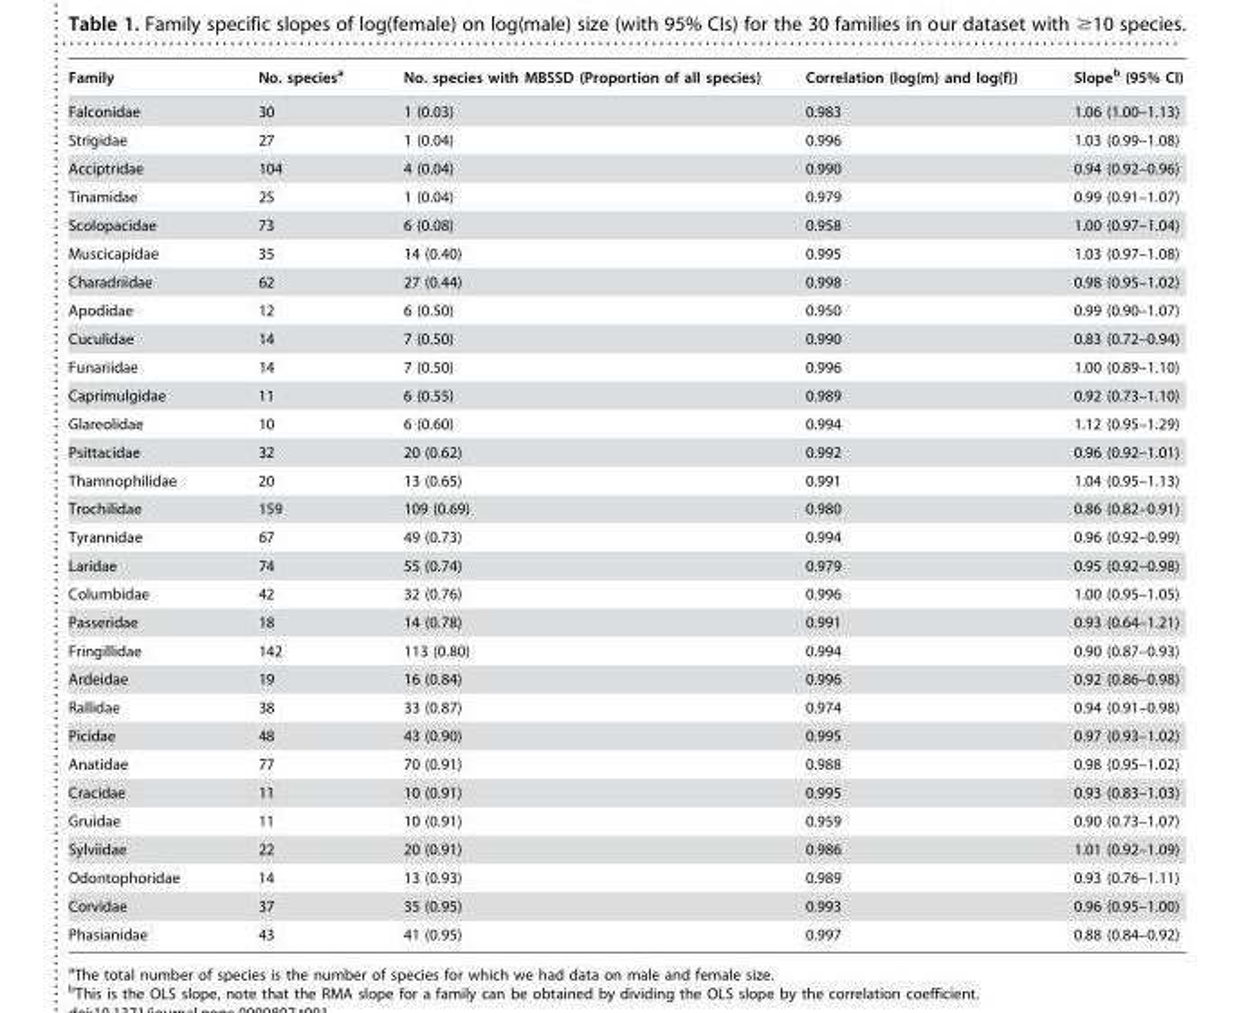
<table><thead><tr><td>Family</td><td>No. species<sup>a</sup></td><td>No. species with MBSSD (Proportion of all species)</td><td>Correlation (log(m) and log(f))</td><td>Slope<sup>b</sup> (95% CI)</td></tr></thead><tbody><tr><td>Falconidae</td><td>30</td><td>1 (0.03)</td><td>0.983</td><td>1.06 (1.00–1.13)</td></tr><tr><td>Strigidae</td><td>27</td><td>1 (0.04)</td><td>0.996</td><td>1.03 (0.99–1.08)</td></tr><tr><td>Acciptridae</td><td>104</td><td>4 (0.04)</td><td>0.990</td><td>0.94 (0.92–0.96)</td></tr><tr><td>Tinamidae</td><td>25</td><td>1 (0.04)</td><td>0.979</td><td>0.99 (0.91–1.07)</td></tr><tr><td>Scolopacidae</td><td>73</td><td>6 (0.08)</td><td>0.958</td><td>1.00 (0.97–1.04)</td></tr><tr><td>Muscicapidae</td><td>35</td><td>14 (0.40)</td><td>0.995</td><td>1.03 (0.97–1.08)</td></tr><tr><td>Charadriidae</td><td>62</td><td>27 (0.44)</td><td>0.998</td><td>0.98 (0.95–1.02)</td></tr><tr><td>Apodidae</td><td>12</td><td>6 (0.50)</td><td>0.950</td><td>0.99 (0.90–1.07)</td></tr><tr><td>Cuculidae</td><td>14</td><td>7 (0.50)</td><td>0.990</td><td>0.83 (0.72–0.94)</td></tr><tr><td>Funariidae</td><td>14</td><td>7 (0.50)</td><td>0.996</td><td>1.00 (0.89–1.10)</td></tr><tr><td>Caprimulgidae</td><td>11</td><td>6 (0.55)</td><td>0.989</td><td>0.92 (0.73–1.10)</td></tr><tr><td>Glareolidae</td><td>10</td><td>6 (0.60)</td><td>0.994</td><td>1.12 (0.95–1.29)</td></tr><tr><td>Psittacidae</td><td>32</td><td>20 (0.62)</td><td>0.992</td><td>0.96 (0.92–1.01)</td></tr><tr><td>Thamnophilidae</td><td>20</td><td>13 (0.65)</td><td>0.991</td><td>1.04 (0.95–1.13)</td></tr><tr><td>Trochilidae</td><td>159</td><td>109 (0.69)</td><td>0.980</td><td>0.86 (0.82–0.91)</td></tr><tr><td>Tyrannidae</td><td>67</td><td>49 (0.73)</td><td>0.994</td><td>0.96 (0.92–0.99)</td></tr><tr><td>Laridae</td><td>74</td><td>55 (0.74)</td><td>0.979</td><td>0.95 (0.92–0.98)</td></tr><tr><td>Columbidae</td><td>42</td><td>32 (0.76)</td><td>0.996</td><td>1.00 (0.95–1.05)</td></tr><tr><td>Passeridae</td><td>18</td><td>14 (0.78)</td><td>0.991</td><td>0.93 (0.64–1.21)</td></tr><tr><td>Fringillidae</td><td>142</td><td>113 (0.80)</td><td>0.994</td><td>0.90 (0.87–0.93)</td></tr><tr><td>Ardeidae</td><td>19</td><td>16 (0.84)</td><td>0.996</td><td>0.92 (0.86–0.98)</td></tr><tr><td>Rallidae</td><td>38</td><td>33 (0.87)</td><td>0.974</td><td>0.94 (0.91–0.98)</td></tr><tr><td>Picidae</td><td>48</td><td>43 (0.90)</td><td>0.995</td><td>0.97 (0.93–1.02)</td></tr><tr><td>Anatidae</td><td>77</td><td>70 (0.91)</td><td>0.988</td><td>0.98 (0.95–1.02)</td></tr><tr><td>Cracidae</td><td>11</td><td>10 (0.91)</td><td>0.995</td><td>0.93 (0.83–1.03)</td></tr><tr><td>Gruidae</td><td>11</td><td>10 (0.91)</td><td>0.959</td><td>0.90 (0.73–1.07)</td></tr><tr><td>Sylviidae</td><td>22</td><td>20 (0.91)</td><td>0.986</td><td>1.01 (0.92–1.09)</td></tr><tr><td>Odontophoridae</td><td>14</td><td>13 (0.93)</td><td>0.989</td><td>0.93 (0.76–1.11)</td></tr><tr><td>Corvidae</td><td>37</td><td>35 (0.95)</td><td>0.993</td><td>0.96 (0.95–1.00)</td></tr><tr><td>Phasianidae</td><td>43</td><td>41 (0.95)</td><td>0.997</td><td>0.88 (0.84–0.92)</td></tr></tbody></table>